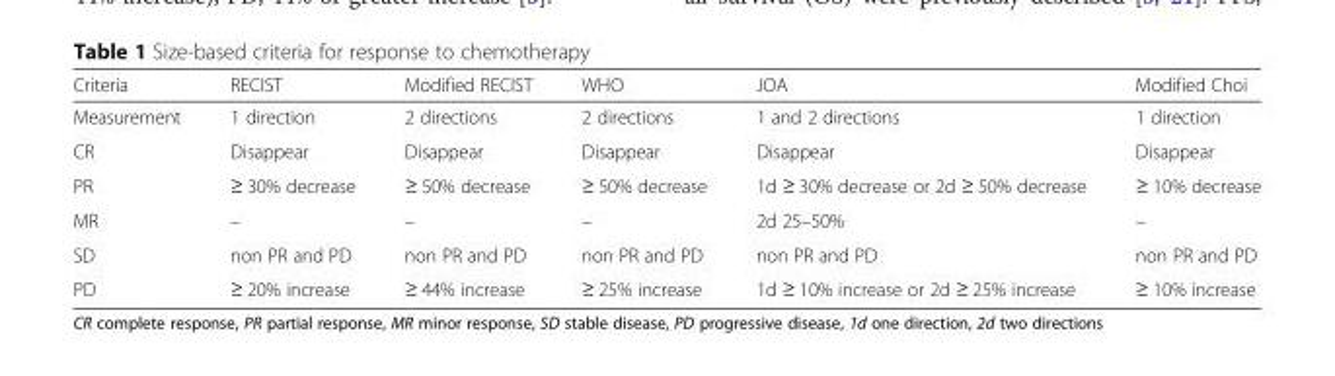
<table><thead><tr><td>Criteria</td><td>RECIST</td><td>Modified RECIST</td><td>WHO</td><td>JOA</td><td>Modified Choi</td></tr></thead><tbody><tr><td>Measurement</td><td>1 direction</td><td>2 directions</td><td>2 directions</td><td>1 and 2 directions</td><td>1 direction</td></tr><tr><td>CR</td><td>Disappear</td><td>Disappear</td><td>Disappear</td><td>Disappear</td><td>Disappear</td></tr><tr><td>PR</td><td>≥ 30% decrease</td><td>≥ 50% decrease</td><td>≥ 50% decrease</td><td>1d ≥ 30% decrease or 2d ≥ 50% decrease</td><td>≥ 10% decrease</td></tr><tr><td>MR</td><td>–</td><td>–</td><td>–</td><td>2d 25–50%</td><td>–</td></tr><tr><td>SD</td><td>non PR and PD</td><td>non PR and PD</td><td>non PR and PD</td><td>non PR and PD</td><td>non PR and PD</td></tr><tr><td>PD</td><td>≥ 20% increase</td><td>≥ 44% increase</td><td>≥ 25% increase</td><td>1d ≥ 10% increase or 2d ≥ 25% increase</td><td>≥ 10% increase</td></tr></tbody></table>